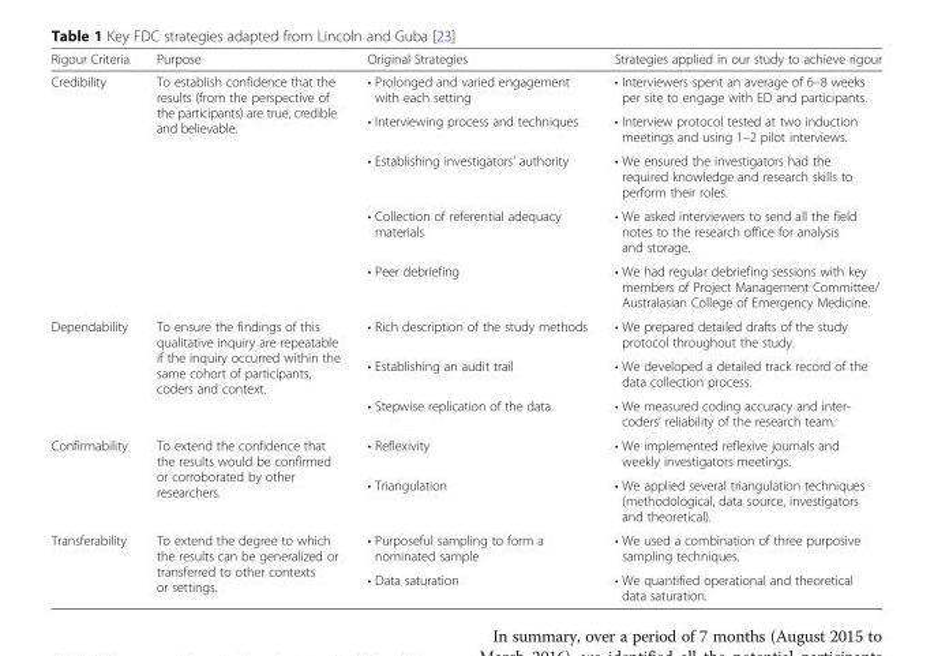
<table><thead><tr><td>Rigour Criteria</td><td>Purpose</td><td>Original Strategies</td><td>Strategies applied in our study to achieve rigour</td></tr></thead><tbody><tr><td rowspan="5">Credibility</td><td rowspan="5">To establish confidence that the results (from the perspective of the participants) are true, credible and believable.</td><td>• Prolonged and varied engagement with each setting</td><td>• Interviewers spent an average of 6–8 weeks per site to engage with ED and participants.</td></tr><tr><td>• Interviewing process and techniques</td><td>• Interview protocol tested at two induction meetings and using 1–2 pilot interviews.</td></tr><tr><td>• Establishing investigators’ authority</td><td>• We ensured the investigators had the required knowledge and research skills to perform their roles.</td></tr><tr><td>• Collection of referential adequacy materials</td><td>• We asked interviewers to send all the field notes to the research office for analysis and storage.</td></tr><tr><td>• Peer debriefing</td><td>• We had regular debriefing sessions with key members of Project Management Committee/ Australasian College of Emergency Medicine.</td></tr><tr><td rowspan="3">Dependability</td><td rowspan="3">To ensure the findings of this qualitative inquiry are repeatable if the inquiry occurred within the same cohort of participants, coders and context.</td><td>• Rich description of the study methods</td><td>• We prepared detailed drafts of the study protocol throughout the study.</td></tr><tr><td>• Establishing an audit trail</td><td>• We developed a detailed track record of the data collection process.</td></tr><tr><td>• Stepwise replication of the data</td><td>• We measured coding accuracy and inter- coders’ reliability of the research team.</td></tr><tr><td rowspan="2">Confirmability</td><td rowspan="2">To extend the confidence that the results would be confirmed or corroborated by other researchers.</td><td>• Reflexivity</td><td>• We implemented reflexive journals and weekly investigators meetings.</td></tr><tr><td>• Triangulation</td><td>• We applied several triangulation techniques (methodological, data source, investigators and theoretical).</td></tr><tr><td rowspan="2">Transferability</td><td rowspan="2">To extend the degree to which the results can be generalized or transferred to other contexts or settings.</td><td>• Purposeful sampling to form a nominated sample</td><td>• We used a combination of three purposive sampling techniques.</td></tr><tr><td>• Data saturation</td><td>• We quantified operational and theoretical data saturation.</td></tr></tbody></table>